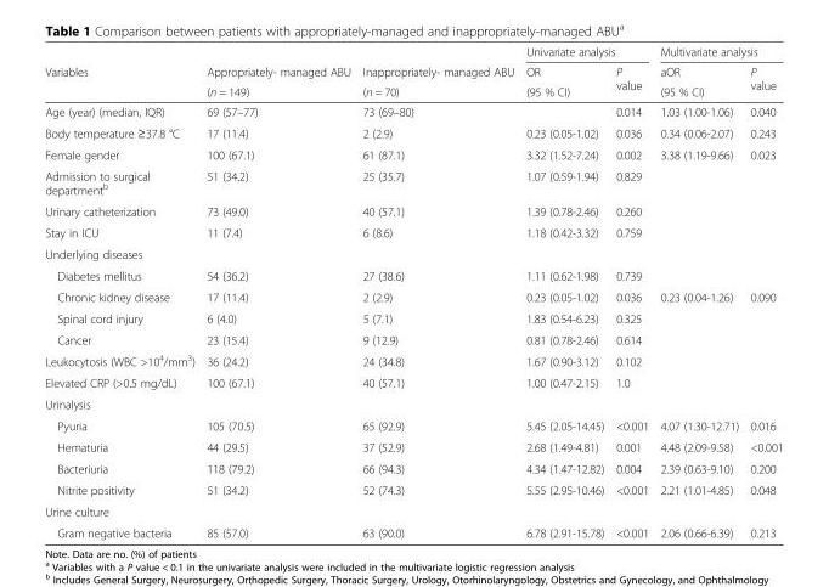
<table><thead><tr><td rowspan="3">Variables</td><td rowspan="3">Appropriately- managed ABU (n = 149)</td><td rowspan="3">Inappropriately- managed ABU (n = 70)</td><td colspan="2">Univariate analysis</td><td colspan="2">Multivariate analysis</td></tr><tr><td rowspan="2">OR (95 % CI)</td><td rowspan="2">P value</td><td rowspan="2">aOR (95 % CI)</td><td rowspan="2">P value</td></tr><tr></tr></thead><tbody><tr><td>Age (year) (median, IQR)</td><td>69 (57–77)</td><td>73 (69–80)</td><td></td><td>0.014</td><td>1.03 (1.00-1.06)</td><td>0.040</td></tr><tr><td>Body temperature ≥37.8 °C</td><td>17 (11.4)</td><td>2 (2.9)</td><td>0.23 (0.05-1.02)</td><td>0.036</td><td>0.34 (0.06-2.07)</td><td>0.243</td></tr><tr><td>Female gender</td><td>100 (67.1)</td><td>61 (87.1)</td><td>3.32 (1.52-7.24)</td><td>0.002</td><td>3.38 (1.19-9.66)</td><td>0.023</td></tr><tr><td>Admission to surgical department<sup>b</sup></td><td>51 (34.2)</td><td>25 (35.7)</td><td>1.07 (0.59-1.94)</td><td>0.829</td><td></td><td></td></tr><tr><td>Urinary catheterization</td><td>73 (49.0)</td><td>40 (57.1)</td><td>1.39 (0.78-2.46)</td><td>0.260</td><td></td><td></td></tr><tr><td>Stay in ICU</td><td>11 (7.4)</td><td>6 (8.6)</td><td>1.18 (0.42-3.32)</td><td>0.759</td><td></td><td></td></tr><tr><td colspan="7">Underlying diseases</td></tr><tr><td>Diabetes mellitus</td><td>54 (36.2)</td><td>27 (38.6)</td><td>1.11 (0.62-1.98)</td><td>0.739</td><td></td><td></td></tr><tr><td>Chronic kidney disease</td><td>17 (11.4)</td><td>2 (2.9)</td><td>0.23 (0.05-1.02)</td><td>0.036</td><td>0.23 (0.04-1.26)</td><td>0.090</td></tr><tr><td>Spinal cord injury</td><td>6 (4.0)</td><td>5 (7.1)</td><td>1.83 (0.54-6.23)</td><td>0.325</td><td></td><td></td></tr><tr><td>Cancer</td><td>23 (15.4)</td><td>9 (12.9)</td><td>0.81 (0.78-2.46)</td><td>0.614</td><td></td><td></td></tr><tr><td>Leukocytosis (WBC &gt;10<sup>4</sup>/mm<sup>3</sup>)</td><td>36 (24.2)</td><td>24 (34.8)</td><td>1.67 (0.90-3.12)</td><td>0.102</td><td></td><td></td></tr><tr><td>Elevated CRP (&gt;0.5 mg/dL)</td><td>100 (67.1)</td><td>40 (57.1)</td><td>1.00 (0.47-2.15)</td><td>1.0</td><td></td><td></td></tr><tr><td colspan="7">Urinalysis</td></tr><tr><td>Pyuria</td><td>105 (70.5)</td><td>65 (92.9)</td><td>5.45 (2.05-14.45)</td><td>&lt;0.001</td><td>4.07 (1.30-12.71)</td><td>0.016</td></tr><tr><td>Hematuria</td><td>44 (29.5)</td><td>37 (52.9)</td><td>2.68 (1.49-4.81)</td><td>0.001</td><td>4.48 (2.09-9.58)</td><td>&lt;0.001</td></tr><tr><td>Bacteriuria</td><td>118 (79.2)</td><td>66 (94.3)</td><td>4.34 (1.47-12.82)</td><td>0.004</td><td>2.39 (0.63-9.10)</td><td>0.200</td></tr><tr><td>Nitrite positivity</td><td>51 (34.2)</td><td>52 (74.3)</td><td>5.55 (2.95-10.46)</td><td>&lt;0.001</td><td>2.21 (1.01-4.85)</td><td>0.048</td></tr><tr><td colspan="7">Urine culture</td></tr><tr><td>Gram negative bacteria</td><td>85 (57.0)</td><td>63 (90.0)</td><td>6.78 (2.91-15.78)</td><td>&lt;0.001</td><td>2.06 (0.66-6.39)</td><td>0.213</td></tr></tbody></table>